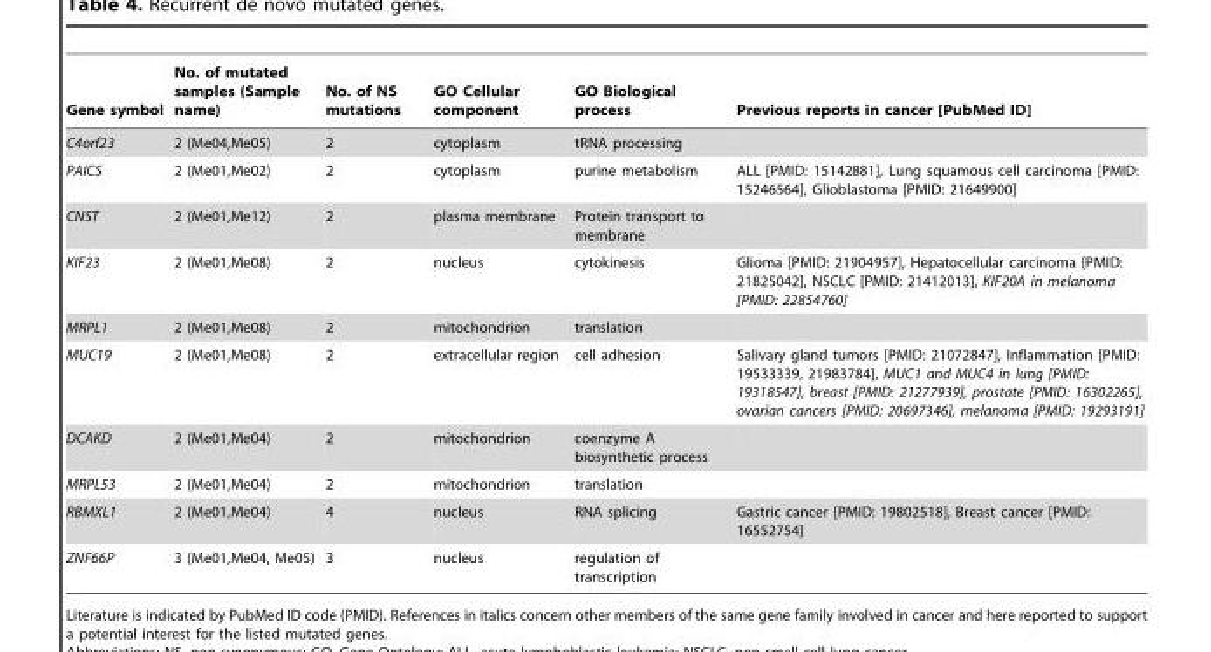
<table><thead><tr><td>Gene symbol</td><td>No. of mutated samples (Sample name)</td><td>No. of NS mutations</td><td>GO Cellular component</td><td>GO Biological process</td><td>Previous reports in cancer [PubMed ID]</td></tr></thead><tbody><tr><td>C4orf23</td><td>2 (Me04,Me05)</td><td>2</td><td>cytoplasm</td><td>tRNA processing</td><td></td></tr><tr><td>PAICS</td><td>2 (Me01,Me02)</td><td>2</td><td>cytoplasm</td><td>purine metabolism</td><td>ALL [PMID: 15142881], Lung squamous cell carcinoma [PMID: 15246564], Glioblastoma [PMID: 21649900]</td></tr><tr><td>CNST</td><td>2 (Me01,Me12)</td><td>2</td><td>plasma membrane</td><td>Protein transport to membrane</td><td></td></tr><tr><td>KIF23</td><td>2 (Me01,Me08)</td><td>2</td><td>nucleus</td><td>cytokinesis</td><td>Glioma [PMID: 21904957], Hepatocellular carcinoma [PMID: 21825042], NSCLC [PMID: 21412013], KIF20A in melanoma [PMID: 22854760]</td></tr><tr><td>MRPL1</td><td>2 (Me01,Me08)</td><td>2</td><td>mitochondrion</td><td>translation</td><td></td></tr><tr><td>MUC19</td><td>2 (Me01,Me08)</td><td>2</td><td>extracellular region</td><td>cell adhesion</td><td>Salivary gland tumors [PMID: 21072847], Inflammation [PMID: 19533339, 21983784], MUC1 and MUC4 in lung [PMID: 19318547], breast [PMID: 21277939], prostate [PMID: 16302265], ovarian cancers [PMID: 20697346], melanoma [PMID: 19293191]</td></tr><tr><td>DCAKD</td><td>2 (Me01,Me04)</td><td>2</td><td>mitochondrion</td><td>coenzyme A biosynthetic process</td><td></td></tr><tr><td>MRPL53</td><td>2 (Me01,Me04)</td><td>2</td><td>mitochondrion</td><td>translation</td><td></td></tr><tr><td>RBMXL1</td><td>2 (Me01,Me04)</td><td>4</td><td>nucleus</td><td>RNA splicing</td><td>Gastric cancer [PMID: 19802518], Breast cancer [PMID: 16552754]</td></tr><tr><td>ZNF66P</td><td>3 (Me01,Me04, Me05)</td><td>3</td><td>nucleus</td><td>regulation of transcription</td><td></td></tr></tbody></table>